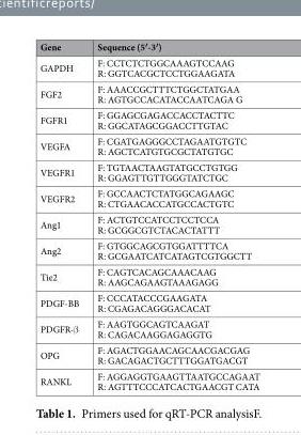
<table><thead><tr><td>Gene</td><td>Sequence (5′-3′)</td></tr></thead><tbody><tr><td>GAPDH</td><td>F: CCTCTCTGGCAAAGTCCAAG R: GGTCACGCTCCTGGAAGATA</td></tr><tr><td>FGF2</td><td>F: AAACCGCTTTCTGGCTATGAA R: AGTGCCACATACCAATCAGA G</td></tr><tr><td>FGFR1</td><td>F: GGAGCGAGACCACCTACTTC R: GGCATAGCGGACCTTGTAC</td></tr><tr><td>VEGFA</td><td>F: CGATGAGGGCCTAGAATGTGTC R: AGCTCATGTGCGCTATGTGC</td></tr><tr><td>VEGFR1</td><td>F: TGTAACTAAGTATGCCTGTGG R: GGAGTTGTTGGGTATCTGC</td></tr><tr><td>VEGFR2</td><td>F: GCCAACTCTATGGCAGAAGC R: CTGAACACCATGCCACTGTC</td></tr><tr><td>Ang1</td><td>F: ACTGTCCATCCTCCTCCA R: GCGGCGTCTACACTATTT</td></tr><tr><td>Ang2</td><td>F: GTGGCAGCGTGGATTTTCA R: GCGAATCATCATAGTCGTGGCTT</td></tr><tr><td>Tie2</td><td>F: CAGTCACAGCAAACAAG R: AAGCAGAAGTAAAGAGG</td></tr><tr><td>PDGF-BB</td><td>F: CCCATACCCGAAGATA R: CGAGACAGGGACACAT</td></tr><tr><td>PDGFR-β</td><td>F: AAGTGGCAGTCAAGAT R: CAGACAAGGAGAGGTG</td></tr><tr><td>OPG</td><td>F: AGACTGGAACAGCAACGACGAG R: GACAGACTGCTTTGGATGACGT</td></tr><tr><td>RANKL</td><td>F: AGGAGGTGAAGTTAATGCCAGAAT R: AGTTTCCCATCACTGAACGT CATA</td></tr></tbody></table>